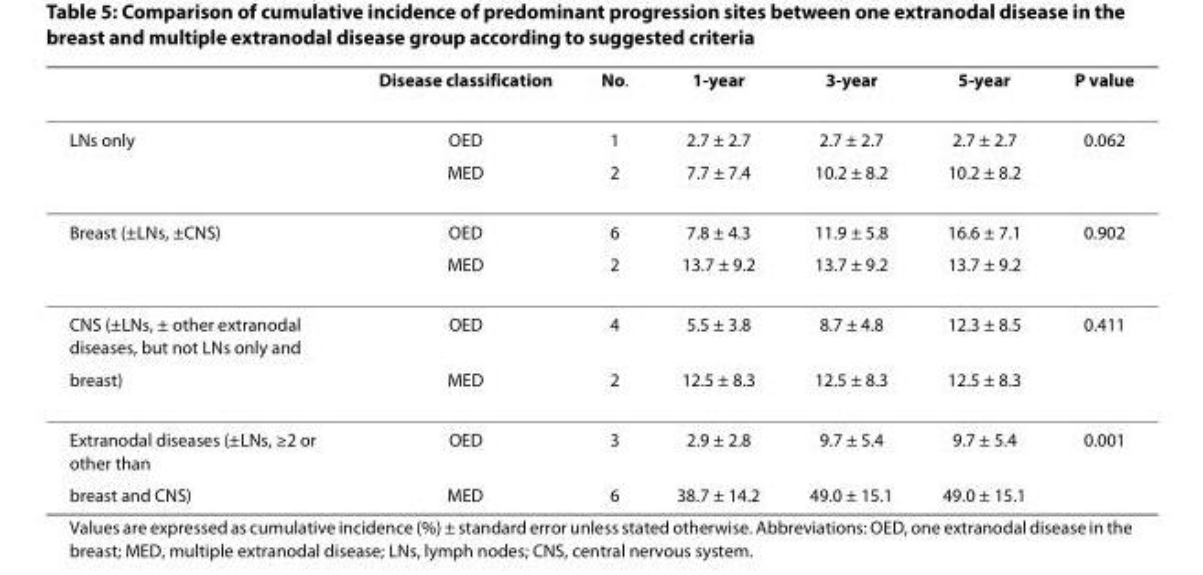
<table><thead><tr><td></td><td>Disease classification</td><td>No.</td><td>1-year</td><td>3-year</td><td>5-year</td><td>P value</td></tr></thead><tbody><tr><td rowspan="2">LNs only</td><td>OED</td><td>1</td><td>2.7 ± 2.7</td><td>2.7 ± 2.7</td><td>2.7 ± 2.7</td><td>0.062</td></tr><tr><td>MED</td><td>2</td><td>7.7 ± 7.4</td><td>10.2 ± 8.2</td><td>10.2 ± 8.2</td><td></td></tr><tr><td rowspan="2">Breast (±LNs, ±CNS)</td><td>OED</td><td>6</td><td>7.8 ± 4.3</td><td>11.9 ± 5.8</td><td>16.6 ± 7.1</td><td>0.902</td></tr><tr><td>MED</td><td>2</td><td>13.7 ± 9.2</td><td>13.7 ± 9.2</td><td>13.7 ± 9.2</td><td></td></tr><tr><td>CNS (±LNs, ± other extranodal diseases, but not LNs only and</td><td>OED</td><td>4</td><td>5.5 ± 3.8</td><td>8.7 ± 4.8</td><td>12.3 ± 8.5</td><td>0.411</td></tr><tr><td>breast)</td><td>MED</td><td>2</td><td>12.5 ± 8.3</td><td>12.5 ± 8.3</td><td>12.5 ± 8.3</td><td></td></tr><tr><td>Extranodal diseases (±LNs, ≥2 or other than</td><td>OED</td><td>3</td><td>2.9 ± 2.8</td><td>9.7 ± 5.4</td><td>9.7 ± 5.4</td><td>0.001</td></tr><tr><td>breast and CNS)</td><td>MED</td><td>6</td><td>38.7 ± 14.2</td><td>49.0 ± 15.1</td><td>49.0 ± 15.1</td><td></td></tr></tbody></table>